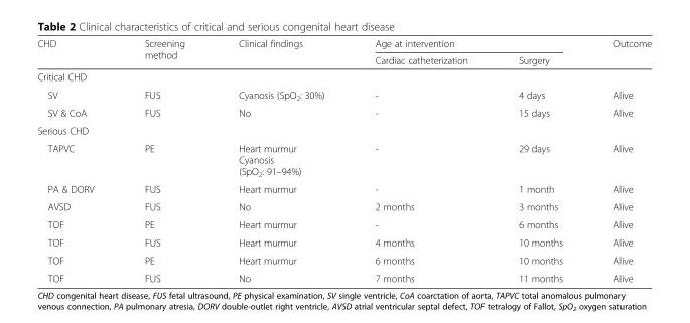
<table><thead><tr><td rowspan="2">CHD</td><td rowspan="2">Screening method</td><td rowspan="2">Clinical findings</td><td colspan="2">Age at intervention</td><td rowspan="2">Outcome</td></tr><tr><td>Cardiac catheterization</td><td>Surgery</td></tr></thead><tbody><tr><td colspan="6">Critical CHD</td></tr><tr><td>SV</td><td>FUS</td><td>Cyanosis (SpO<sub>2</sub>: 30%)</td><td>-</td><td>4 days</td><td>Alive</td></tr><tr><td>SV &amp; CoA</td><td>FUS</td><td>No</td><td>-</td><td>15 days</td><td>Alive</td></tr><tr><td colspan="6">Serious CHD</td></tr><tr><td>TAPVC</td><td>PE</td><td>Heart murmur Cyanosis (SpO<sub>2</sub>: 91–94%)</td><td>-</td><td>29 days</td><td>Alive</td></tr><tr><td>PA &amp; DORV</td><td>FUS</td><td>Heart murmur</td><td>-</td><td>1 month</td><td>Alive</td></tr><tr><td>AVSD</td><td>FUS</td><td>No</td><td>2 months</td><td>3 months</td><td>Alive</td></tr><tr><td>TOF</td><td>PE</td><td>Heart murmur</td><td>-</td><td>6 months</td><td>Alive</td></tr><tr><td>TOF</td><td>FUS</td><td>Heart murmur</td><td>4 months</td><td>10 months</td><td>Alive</td></tr><tr><td>TOF</td><td>PE</td><td>Heart murmur</td><td>6 months</td><td>10 months</td><td>Alive</td></tr><tr><td>TOF</td><td>FUS</td><td>No</td><td>7 months</td><td>11 months</td><td>Alive</td></tr></tbody></table>